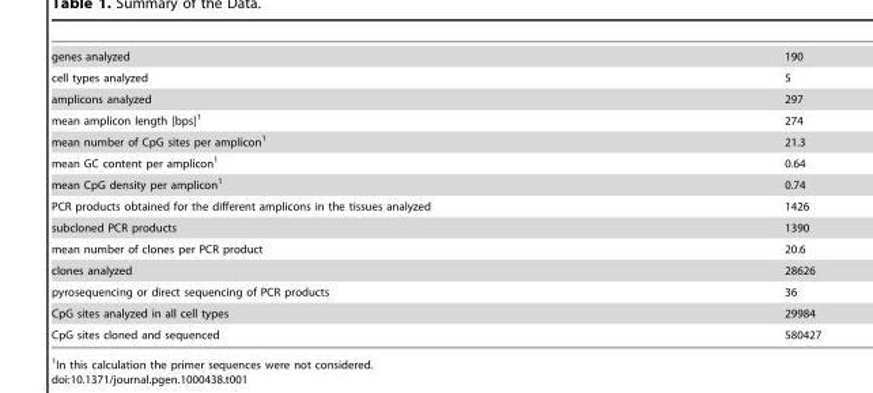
<table><tbody><tr><td>genes analyzed</td><td>190</td></tr><tr><td>cell types analyzed</td><td>5</td></tr><tr><td>amplicons analyzed</td><td>297</td></tr><tr><td>mean amplicon length [bps]<sup>1</sup></td><td>274</td></tr><tr><td>mean number of CpG sites per amplicon<sup>1</sup></td><td>21.3</td></tr><tr><td>mean GC content per amplicon<sup>1</sup></td><td>0.64</td></tr><tr><td>mean CpG density per amplicon<sup>1</sup></td><td>0.74</td></tr><tr><td>PCR products obtained for the different amplicons in the tissues analyzed</td><td>1426</td></tr><tr><td>subcloned PCR products</td><td>1390</td></tr><tr><td>mean number of clones per PCR product</td><td>20.6</td></tr><tr><td>clones analyzed</td><td>28626</td></tr><tr><td>pyrosequencing or direct sequencing of PCR products</td><td>36</td></tr><tr><td>CpG sites analyzed in all cell types</td><td>29984</td></tr><tr><td>CpG sites cloned and sequenced</td><td>580427</td></tr></tbody></table>